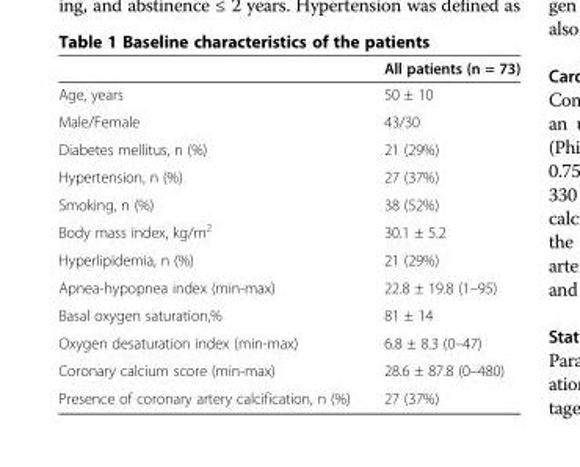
<table><thead><tr><td></td><td>All patients (n = 73)</td></tr></thead><tbody><tr><td>Age, years</td><td>50 ± 10</td></tr><tr><td>Male/Female</td><td>43/30</td></tr><tr><td>Diabetes mellitus, n (%)</td><td>21 (29%)</td></tr><tr><td>Hypertension, n (%)</td><td>27 (37%)</td></tr><tr><td>Smoking, n (%)</td><td>38 (52%)</td></tr><tr><td>Body mass index, kg/m<sup>2</sup></td><td>30.1 ± 5.2</td></tr><tr><td>Hyperlipidemia, n (%)</td><td>21 (29%)</td></tr><tr><td>Apnea-hypopnea index (min-max)</td><td>22.8 ± 19.8 (1–95)</td></tr><tr><td>Basal oxygen saturation,%</td><td>81 ± 14</td></tr><tr><td>Oxygen desaturation index (min-max)</td><td>6.8 ± 8.3 (0–47)</td></tr><tr><td>Coronary calcium score (min-max)</td><td>28.6 ± 87.8 (0–480)</td></tr><tr><td>Presence of coronary artery calcification, n (%)</td><td>27 (37%)</td></tr></tbody></table>